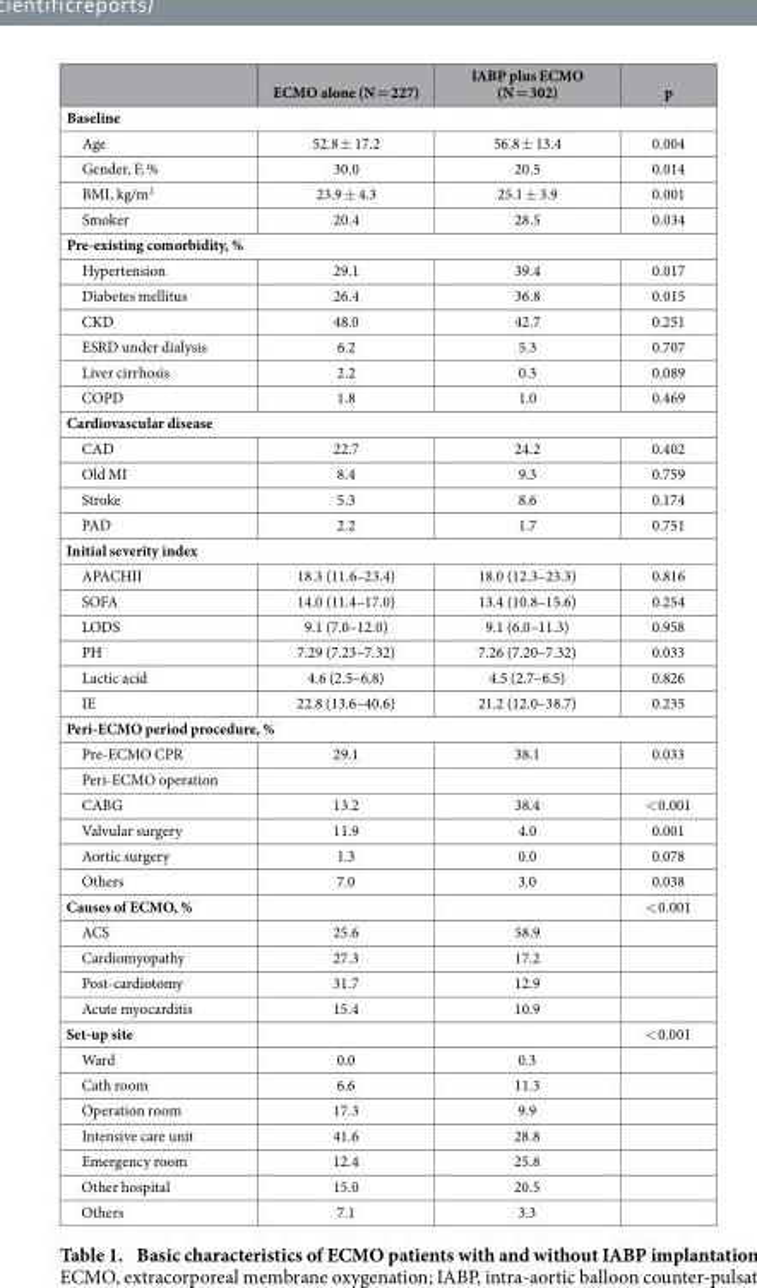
<table><thead><tr><td></td><td>ECMO alone (N = 227)</td><td>IABP plus ECMO (N = 302)</td><td>p</td></tr></thead><tbody><tr><td colspan="4">Baseline</td></tr><tr><td>Age</td><td>52.8 ± 17.2</td><td>56.8 ± 13.4</td><td>0.004</td></tr><tr><td>Gender, F, %</td><td>30.0</td><td>20.5</td><td>0.014</td></tr><tr><td>BMI, kg/m<sup>2</sup></td><td>23.9 ± 4.3</td><td>25.1 ± 3.9</td><td>0.001</td></tr><tr><td>Smoker</td><td>20.4</td><td>28.5</td><td>0.034</td></tr><tr><td colspan="4">Pre-existing comorbidity, %</td></tr><tr><td>Hypertension</td><td>29.1</td><td>39.4</td><td>0.017</td></tr><tr><td>Diabetes mellitus</td><td>26.4</td><td>36.8</td><td>0.015</td></tr><tr><td>CKD</td><td>48.0</td><td>42.7</td><td>0.251</td></tr><tr><td>ESRD under dialysis</td><td>6.2</td><td>5.3</td><td>0.707</td></tr><tr><td>Liver cirrhosis</td><td>2.2</td><td>0.3</td><td>0.089</td></tr><tr><td>COPD</td><td>1.8</td><td>1.0</td><td>0.469</td></tr><tr><td colspan="4">Cardiovascular disease</td></tr><tr><td>CAD</td><td>22.7</td><td>24.2</td><td>0.402</td></tr><tr><td>Old MI</td><td>8.4</td><td>9.3</td><td>0.759</td></tr><tr><td>Stroke</td><td>5.3</td><td>8.6</td><td>0.174</td></tr><tr><td>PAD</td><td>2.2</td><td>1.7</td><td>0.751</td></tr><tr><td colspan="4">Initial severity index</td></tr><tr><td>APACHII</td><td>18.3 (11.6–23.4)</td><td>18.0 (12.3–23.3)</td><td>0.816</td></tr><tr><td>SOFA</td><td>14.0 (11.4–17.0)</td><td>13.4 (10.8–15.6)</td><td>0.254</td></tr><tr><td>LODS</td><td>9.1 (7.0–12.0)</td><td>9.1 (6.0–11.3)</td><td>0.958</td></tr><tr><td>PH</td><td>7.29 (7.23–7.32)</td><td>7.26 (7.20–7.32)</td><td>0.033</td></tr><tr><td>Lactic acid</td><td>4.6 (2.5–6.8)</td><td>4.5 (2.7–6.5)</td><td>0.826</td></tr><tr><td>IE</td><td>22.8 (13.6–40.6)</td><td>21.2 (12.0–38.7)</td><td>0.235</td></tr><tr><td colspan="4">Peri-ECMO period procedure, %</td></tr><tr><td>Pre-ECMO CPR</td><td>29.1</td><td>38.1</td><td>0.033</td></tr><tr><td colspan="4">Peri-ECMO operation</td></tr><tr><td>CABG</td><td>13.2</td><td>38.4</td><td>&lt; 0.001</td></tr><tr><td>Valvular surgery</td><td>11.9</td><td>4.0</td><td>0.001</td></tr><tr><td>Aortic surgery</td><td>1.3</td><td>0.0</td><td>0.078</td></tr><tr><td>Others</td><td>7.0</td><td>3.0</td><td>0.038</td></tr><tr><td>Causes of ECMO, %</td><td></td><td></td><td>&lt; 0.001</td></tr><tr><td>ACS</td><td>25.6</td><td>58.9</td><td></td></tr><tr><td>Cardiomyopathy</td><td>27.3</td><td>17.2</td><td></td></tr><tr><td>Post-cardiotomy</td><td>31.7</td><td>12.9</td><td></td></tr><tr><td>Acute myocarditis</td><td>15.4</td><td>10.9</td><td></td></tr><tr><td>Set-up site</td><td></td><td></td><td>&lt; 0.001</td></tr><tr><td>Ward</td><td>0.0</td><td>0.3</td><td></td></tr><tr><td>Cath room</td><td>6.6</td><td>11.3</td><td></td></tr><tr><td>Operation room</td><td>17.3</td><td>9.9</td><td></td></tr><tr><td>Intensive care unit</td><td>41.6</td><td>28.8</td><td></td></tr><tr><td>Emergency room</td><td>12.4</td><td>25.8</td><td></td></tr><tr><td>Other hospital</td><td>15.0</td><td>20.5</td><td></td></tr><tr><td>Others</td><td>7.1</td><td>3.3</td><td></td></tr></tbody></table>